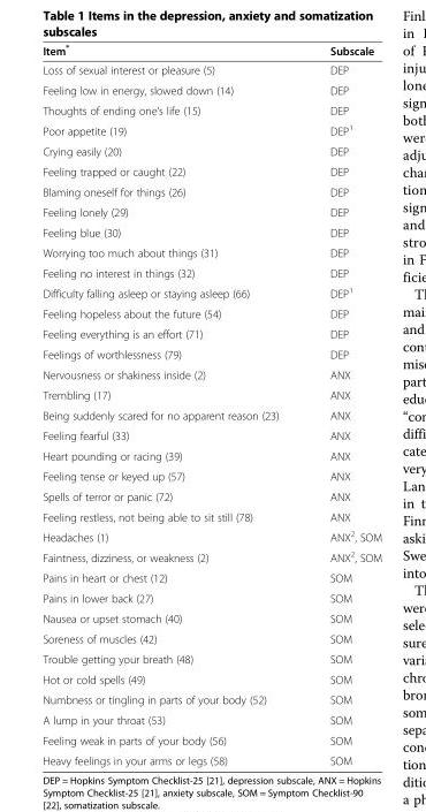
<table><thead><tr><td>Item*</td><td>Subscale</td></tr></thead><tbody><tr><td>Loss of sexual interest or pleasure (5)</td><td>DEP</td></tr><tr><td>Feeling low in energy, slowed down (14)</td><td>DEP</td></tr><tr><td>Thoughts of ending one’s life (15)</td><td>DEP</td></tr><tr><td>Poor appetite (19)</td><td>DEP<sup>1</sup></td></tr><tr><td>Crying easily (20)</td><td>DEP</td></tr><tr><td>Feeling trapped or caught (22)</td><td>DEP</td></tr><tr><td>Blaming oneself for things (26)</td><td>DEP</td></tr><tr><td>Feeling lonely (29)</td><td>DEP</td></tr><tr><td>Feeling blue (30)</td><td>DEP</td></tr><tr><td>Worrying too much about things (31)</td><td>DEP</td></tr><tr><td>Feeling no interest in things (32)</td><td>DEP</td></tr><tr><td>Difficulty falling asleep or staying asleep (66)</td><td>DEP<sup>1</sup></td></tr><tr><td>Feeling hopeless about the future (54)</td><td>DEP</td></tr><tr><td>Feeling everything is an effort (71)</td><td>DEP</td></tr><tr><td>Feelings of worthlessness (79)</td><td>DEP</td></tr><tr><td>Nervousness or shakiness inside (2)</td><td>ANX</td></tr><tr><td>Trembling (17)</td><td>ANX</td></tr><tr><td>Being suddenly scared for no apparent reason (23)</td><td>ANX</td></tr><tr><td>Feeling fearful (33)</td><td>ANX</td></tr><tr><td>Heart pounding or racing (39)</td><td>ANX</td></tr><tr><td>Feeling tense or keyed up (57)</td><td>ANX</td></tr><tr><td>Spells of terror or panic (72)</td><td>ANX</td></tr><tr><td>Feeling restless, not being able to sit still (78)</td><td>ANX</td></tr><tr><td>Headaches (1)</td><td>ANX<sup>2</sup>, SOM</td></tr><tr><td>Faintness, dizziness, or weakness (2)</td><td>ANX<sup>2</sup>, SOM</td></tr><tr><td>Pains in heart or chest (12)</td><td>SOM</td></tr><tr><td>Pains in lower back (27)</td><td>SOM</td></tr><tr><td>Nausea or upset stomach (40)</td><td>SOM</td></tr><tr><td>Soreness of muscles (42)</td><td>SOM</td></tr><tr><td>Trouble getting your breath (48)</td><td>SOM</td></tr><tr><td>Hot or cold spells (49)</td><td>SOM</td></tr><tr><td>Numbness or tingling in parts of your body (52)</td><td>SOM</td></tr><tr><td>A lump in your throat (53)</td><td>SOM</td></tr><tr><td>Feeling weak in parts of your body (56)</td><td>SOM</td></tr><tr><td>Heavy feelings in your arms or legs (58)</td><td>SOM</td></tr></tbody></table>